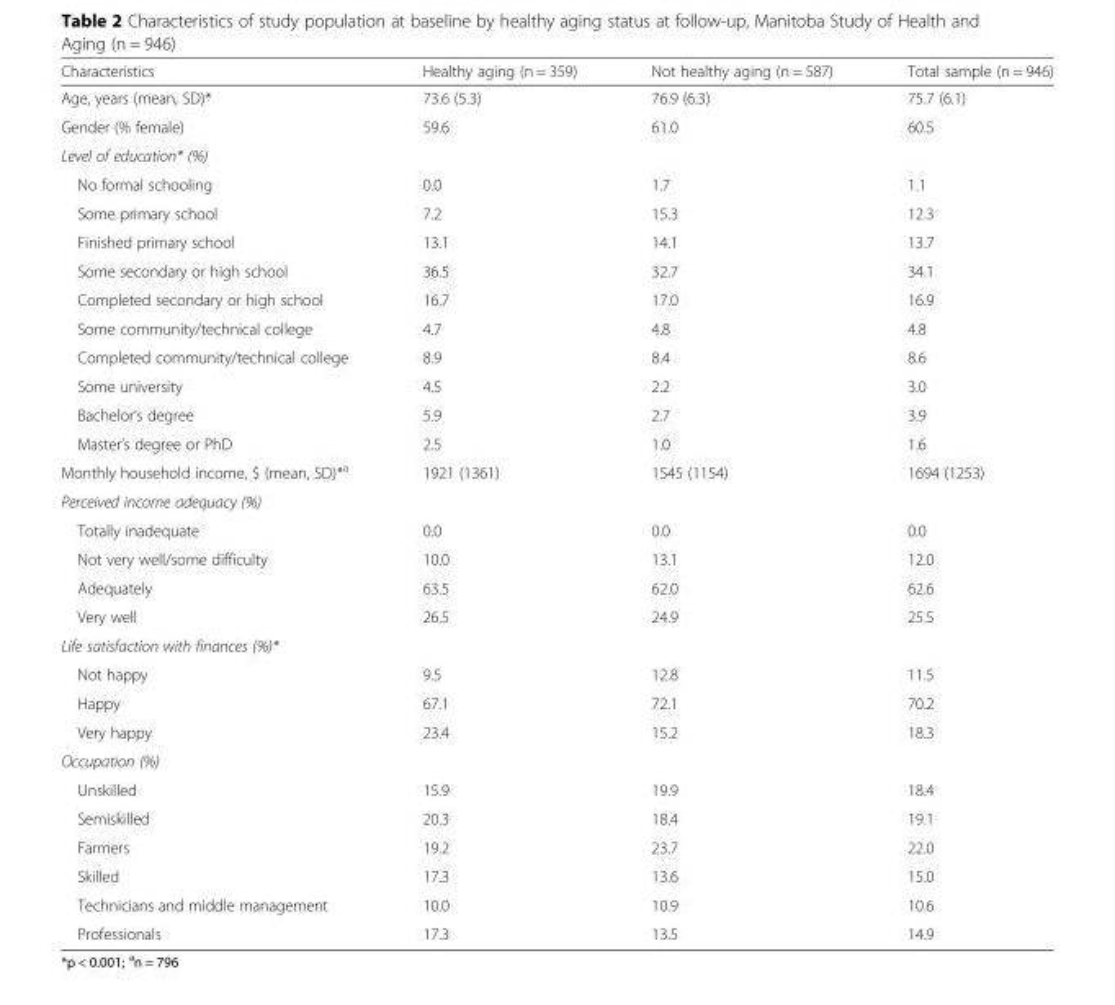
<table><thead><tr><td>Characteristics</td><td>Healthy aging (n = 359)</td><td>Not healthy aging (n = 587)</td><td>Total sample (n = 946)</td></tr></thead><tbody><tr><td>Age, years (mean, SD)*</td><td>73.6 (5.3)</td><td>76.9 (6.3)</td><td>75.7 (6.1)</td></tr><tr><td>Gender (% female)</td><td>59.6</td><td>61.0</td><td>60.5</td></tr><tr><td colspan="4">Level of education* (%)</td></tr><tr><td>No formal schooling</td><td>0.0</td><td>1.7</td><td>1.1</td></tr><tr><td>Some primary school</td><td>7.2</td><td>15.3</td><td>12.3</td></tr><tr><td>Finished primary school</td><td>13.1</td><td>14.1</td><td>13.7</td></tr><tr><td>Some secondary or high school</td><td>36.5</td><td>32.7</td><td>34.1</td></tr><tr><td>Completed secondary or high school</td><td>16.7</td><td>17.0</td><td>16.9</td></tr><tr><td>Some community/technical college</td><td>4.7</td><td>4.8</td><td>4.8</td></tr><tr><td>Completed community/technical college</td><td>8.9</td><td>8.4</td><td>8.6</td></tr><tr><td>Some university</td><td>4.5</td><td>2.2</td><td>3.0</td></tr><tr><td>Bachelor’s degree</td><td>5.9</td><td>2.7</td><td>3.9</td></tr><tr><td>Master’s degree or PhD</td><td>2.5</td><td>1.0</td><td>1.6</td></tr><tr><td>Monthly household income, $ (mean, SD)*<sup>a</sup></td><td>1921 (1361)</td><td>1545 (1154)</td><td>1694 (1253)</td></tr><tr><td colspan="4">Perceived income adequacy (%)</td></tr><tr><td>Totally inadequate</td><td>0.0</td><td>0.0</td><td>0.0</td></tr><tr><td>Not very well/some difficulty</td><td>10.0</td><td>13.1</td><td>12.0</td></tr><tr><td>Adequately</td><td>63.5</td><td>62.0</td><td>62.6</td></tr><tr><td>Very well</td><td>26.5</td><td>24.9</td><td>25.5</td></tr><tr><td colspan="4">Life satisfaction with finances (%)*</td></tr><tr><td>Not happy</td><td>9.5</td><td>12.8</td><td>11.5</td></tr><tr><td>Happy</td><td>67.1</td><td>72.1</td><td>70.2</td></tr><tr><td>Very happy</td><td>23.4</td><td>15.2</td><td>18.3</td></tr><tr><td colspan="4">Occupation (%)</td></tr><tr><td>Unskilled</td><td>15.9</td><td>19.9</td><td>18.4</td></tr><tr><td>Semiskilled</td><td>20.3</td><td>18.4</td><td>19.1</td></tr><tr><td>Farmers</td><td>19.2</td><td>23.7</td><td>22.0</td></tr><tr><td>Skilled</td><td>17.3</td><td>13.6</td><td>15.0</td></tr><tr><td>Technicians and middle management</td><td>10.0</td><td>10.9</td><td>10.6</td></tr><tr><td>Professionals</td><td>17.3</td><td>13.5</td><td>14.9</td></tr></tbody></table>